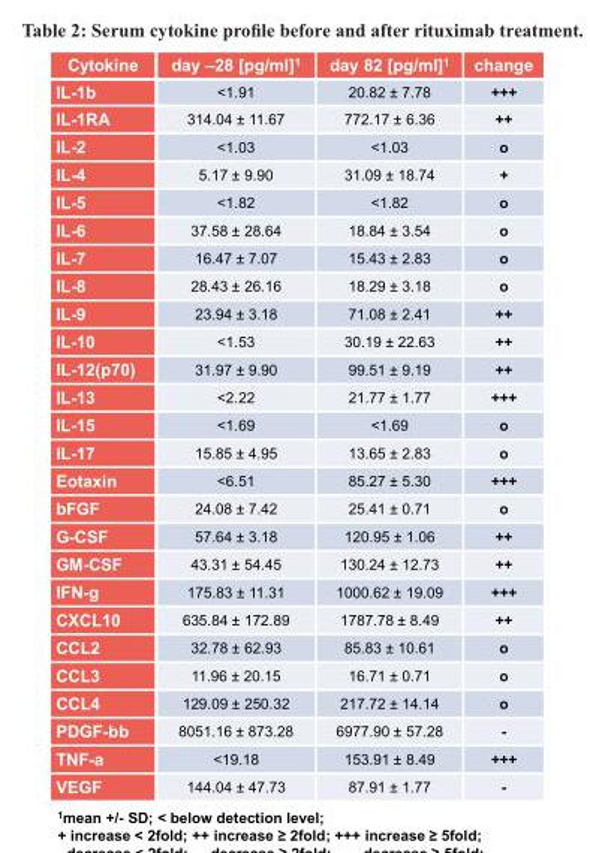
<table><thead><tr><td>Cytokine</td><td>day –28 [pg/ml]<sup>1</sup></td><td>day 82 [pg/ml]<sup>1</sup></td><td>change</td></tr></thead><tbody><tr><td>IL-1b</td><td>&lt;1.91</td><td>20.82 ± 7.78</td><td>+++</td></tr><tr><td>IL-1RA</td><td>314.04 ± 11.67</td><td>772.17 ± 6.36</td><td>++</td></tr><tr><td>IL-2</td><td>&lt;1.03</td><td>&lt;1.03</td><td>o</td></tr><tr><td>IL-4</td><td>5.17 ± 9.90</td><td>31.09 ± 18.74</td><td>+</td></tr><tr><td>IL-5</td><td>&lt;1.82</td><td>&lt;1.82</td><td>o</td></tr><tr><td>IL-6</td><td>37.58 ± 28.64</td><td>18.84 ± 3.54</td><td>o</td></tr><tr><td>IL-7</td><td>16.47 ± 7.07</td><td>15.43 ± 2.83</td><td>o</td></tr><tr><td>IL-8</td><td>28.43 ± 26.16</td><td>18.29 ± 3.18</td><td>o</td></tr><tr><td>IL-9</td><td>23.94 ± 3.18</td><td>71.08 ± 2.41</td><td>++</td></tr><tr><td>IL-10</td><td>&lt;1.53</td><td>30.19 ± 22.63</td><td>++</td></tr><tr><td>IL-12(p70)</td><td>31.97 ± 9.90</td><td>99.51 ± 9.19</td><td>++</td></tr><tr><td>IL-13</td><td>&lt;2.22</td><td>21.77 ± 1.77</td><td>+++</td></tr><tr><td>IL-15</td><td>&lt;1.69</td><td>&lt;1.69</td><td>o</td></tr><tr><td>IL-17</td><td>15.85 ± 4.95</td><td>13.65 ± 2.83</td><td>o</td></tr><tr><td>Eotaxin</td><td>&lt;6.51</td><td>85.27 ± 5.30</td><td>+++</td></tr><tr><td>bFGF</td><td>24.08 ± 7.42</td><td>25.41 ± 0.71</td><td>o</td></tr><tr><td>G-CSF</td><td>57.64 ± 3.18</td><td>120.95 ± 1.06</td><td>++</td></tr><tr><td>GM-CSF</td><td>43.31 ± 54.45</td><td>130.24 ± 12.73</td><td>++</td></tr><tr><td>IFN-g</td><td>175.83 ± 11.31</td><td>1000.62 ± 19.09</td><td>+++</td></tr><tr><td>CXCL10</td><td>635.84 ± 172.89</td><td>1787.78 ± 8.49</td><td>++</td></tr><tr><td>CCL2</td><td>32.78 ± 62.93</td><td>85.83 ± 10.61</td><td>o</td></tr><tr><td>CCL3</td><td>11.96 ± 20.15</td><td>16.71 ± 0.71</td><td>o</td></tr><tr><td>CCL4</td><td>129.09 ± 250.32</td><td>217.72 ± 14.14</td><td>o</td></tr><tr><td>PDGF-bb</td><td>8051.16 ± 873.28</td><td>6977.90 ± 57.28</td><td>-</td></tr><tr><td>TNF-a</td><td>&lt;19.18</td><td>153.91 ± 8.49</td><td>+++</td></tr><tr><td>VEGF</td><td>144.04 ± 47.73</td><td>87.91 ± 1.77</td><td>-</td></tr></tbody></table>